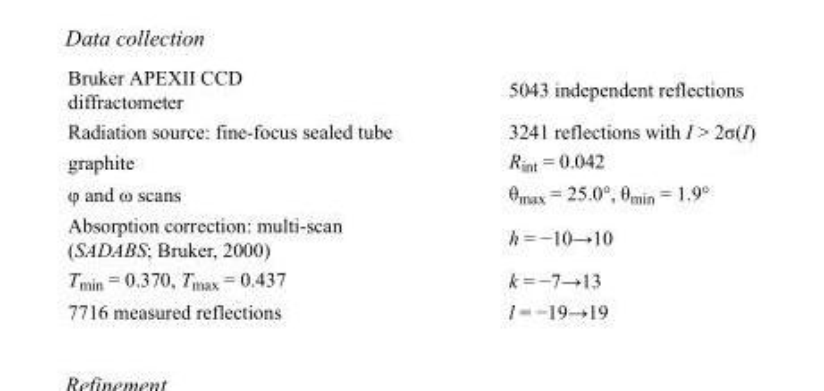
<table><tbody><tr><td>Bruker APEXII CCD diffractometer</td><td>5043 independent reflections</td></tr><tr><td>Radiation source: fine-focus sealed tube</td><td>3241 reflections with I &gt; 2σ(I)</td></tr><tr><td>graphite</td><td>R<sub>int</sub> = 0.042</td></tr><tr><td>φ and ω scans</td><td>θ<sub>max</sub> = 25.0°, θ<sub>min</sub> = 1.9°</td></tr><tr><td>Absorption correction: multi-scan (SADABS; Bruker, 2000)</td><td>h = −10→10</td></tr><tr><td>T<sub>min</sub> = 0.370, T<sub>max</sub> = 0.437</td><td>k = −7→13</td></tr><tr><td>7716 measured reflections</td><td>l = −19→19</td></tr></tbody></table>